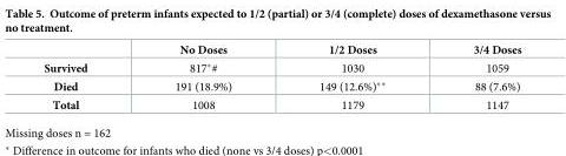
<table><thead><tr><td></td><td>No Doses</td><td>1/2 Doses</td><td>3/4 Doses</td></tr></thead><tbody><tr><td>Survived</td><td>817*#</td><td>1030</td><td>1059</td></tr><tr><td>Died</td><td>191 (18.9%)</td><td>149 (12.6%)**</td><td>88 (7.6%)</td></tr><tr><td>Total</td><td>1008</td><td>1179</td><td>1147</td></tr></tbody></table>